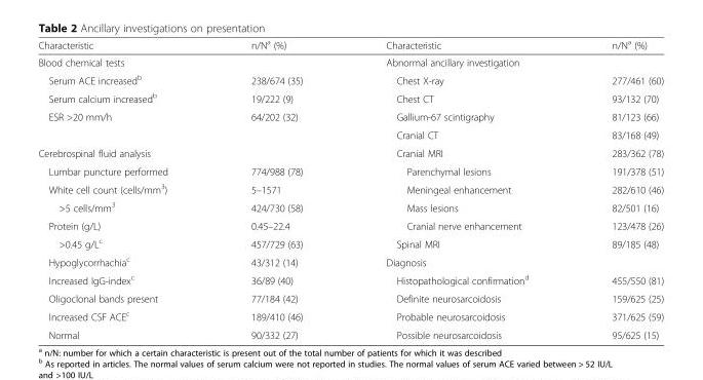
<table><thead><tr><td>Characteristic</td><td>n/N<sup>a</sup> (%)</td><td>Characteristic</td><td>n/N<sup>a</sup> (%)</td></tr></thead><tbody><tr><td>Blood chemical tests</td><td></td><td>Abnormal ancillary investigation</td><td></td></tr><tr><td>Serum ACE increased<sup>b</sup></td><td>238/674 (35)</td><td>Chest X-ray</td><td>277/461 (60)</td></tr><tr><td>Serum calcium increased<sup>b</sup></td><td>19/222 (9)</td><td>Chest CT</td><td>93/132 (70)</td></tr><tr><td rowspan="2">ESR &gt;20 mm/h</td><td>64/202 (32)</td><td>Gallium-67 scintigraphy</td><td>81/123 (66)</td></tr><tr><td></td><td>Cranial CT</td><td>83/168 (49)</td></tr><tr><td>Cerebrospinal fluid analysis</td><td></td><td>Cranial MRI</td><td>283/362 (78)</td></tr><tr><td>Lumbar puncture performed</td><td>774/988 (78)</td><td>Parenchymal lesions</td><td>191/378 (51)</td></tr><tr><td>White cell count (cells/mm<sup>3</sup>)</td><td>5–1571</td><td>Meningeal enhancement</td><td>282/610 (46)</td></tr><tr><td>&gt;5 cells/mm<sup>3</sup></td><td>424/730 (58)</td><td>Mass lesions</td><td>82/501 (16)</td></tr><tr><td>Protein (g/L)</td><td>0.45–22.4</td><td>Cranial nerve enhancement</td><td>123/478 (26)</td></tr><tr><td>&gt;0.45 g/L<sup>c</sup></td><td>457/729 (63)</td><td>Spinal MRI</td><td>89/185 (48)</td></tr><tr><td>Hypoglycorrhachia<sup>c</sup></td><td>43/312 (14)</td><td>Diagnosis</td><td></td></tr><tr><td>Increased IgG-index<sup>c</sup></td><td>36/89 (40)</td><td>Histopathological confirmation<sup>d</sup></td><td>455/550 (81)</td></tr><tr><td>Oligoclonal bands present</td><td>77/184 (42)</td><td>Definite neurosarcoidosis</td><td>159/625 (25)</td></tr><tr><td>Increased CSF ACE<sup>c</sup></td><td>189/410 (46)</td><td>Probable neurosarcoidosis</td><td>371/625 (59)</td></tr><tr><td>Normal</td><td>90/332 (27)</td><td>Possible neurosarcoidosis</td><td>95/625 (15)</td></tr></tbody></table>